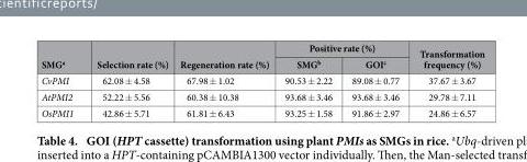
<table><thead><tr><td rowspan="2">SMG<sup>a</sup></td><td rowspan="2">Selection rate (%)</td><td rowspan="2">Regeneration rate (%)</td><td colspan="2">Positive rate (%)</td><td rowspan="2">Transformation frequency (%)</td></tr><tr><td>SMG<sup>b</sup></td><td>GOI<sup>c</sup></td></tr></thead><tbody><tr><td>CvPMI</td><td>62.08 ± 4.58</td><td>67.98 ± 1.02</td><td>90.53 ± 2.22</td><td>89.08 ± 0.77</td><td>37.67 ± 3.67</td></tr><tr><td>AtPMI2</td><td>52.22 ± 5.56</td><td>60.38 ± 10.38</td><td>93.68 ± 3.46</td><td>93.68 ± 3.46</td><td>29.78 ± 7.11</td></tr><tr><td>OsPMI1</td><td>42.86 ± 5.71</td><td>61.81 ± 6.43</td><td>93.25 ± 1.58</td><td>91.86 ± 2.97</td><td>24.86 ± 6.57</td></tr></tbody></table>